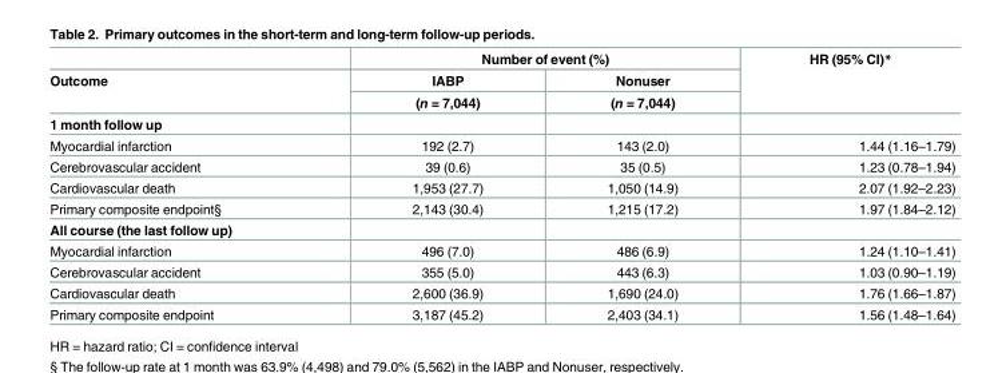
<table><thead><tr><td rowspan="3">Outcome</td><td colspan="2">Number of event (%)</td><td rowspan="3">HR (95% CI)*</td></tr><tr><td rowspan="2">IABP (n = 7,044)</td><td rowspan="2">Nonuser (n = 7,044)</td></tr><tr></tr></thead><tbody><tr><td colspan="4">1 month follow up</td></tr><tr><td>Myocardial infarction</td><td>192 (2.7)</td><td>143 (2.0)</td><td>1.44 (1.16–1.79)</td></tr><tr><td>Cerebrovascular accident</td><td>39 (0.6)</td><td>35 (0.5)</td><td>1.23 (0.78–1.94)</td></tr><tr><td>Cardiovascular death</td><td>1,953 (27.7)</td><td>1,050 (14.9)</td><td>2.07 (1.92–2.23)</td></tr><tr><td>Primary composite endpoint§</td><td>2,143 (30.4)</td><td>1,215 (17.2)</td><td>1.97 (1.84–2.12)</td></tr><tr><td colspan="4">All course (the last follow up)</td></tr><tr><td>Myocardial infarction</td><td>496 (7.0)</td><td>486 (6.9)</td><td>1.24 (1.10–1.41)</td></tr><tr><td>Cerebrovascular accident</td><td>355 (5.0)</td><td>443 (6.3)</td><td>1.03 (0.90–1.19)</td></tr><tr><td>Cardiovascular death</td><td>2,600 (36.9)</td><td>1,690 (24.0)</td><td>1.76 (1.66–1.87)</td></tr><tr><td>Primary composite endpoint</td><td>3,187 (45.2)</td><td>2,403 (34.1)</td><td>1.56 (1.48–1.64)</td></tr></tbody></table>